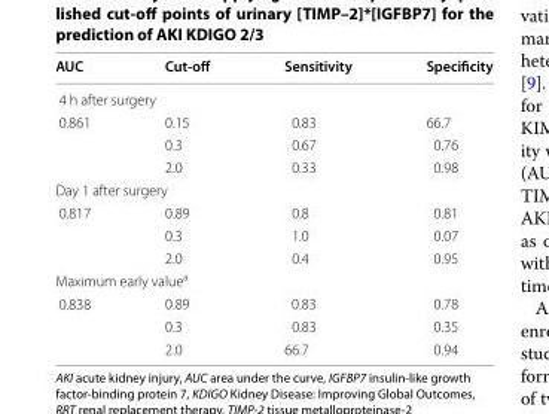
<table><thead><tr><td>AUC</td><td>Cut-off</td><td>Sensitivity</td><td>Specificity</td></tr></thead><tbody><tr><td colspan="4">4 h after surgery</td></tr><tr><td rowspan="3">0.861</td><td>0.15</td><td>0.83</td><td>66.7</td></tr><tr><td>0.3</td><td>0.67</td><td>0.76</td></tr><tr><td>2.0</td><td>0.33</td><td>0.98</td></tr><tr><td colspan="4">Day 1 after surgery</td></tr><tr><td rowspan="3">0.817</td><td>0.89</td><td>0.8</td><td>0.81</td></tr><tr><td>0.3</td><td>1.0</td><td>0.07</td></tr><tr><td>2.0</td><td>0.4</td><td>0.95</td></tr><tr><td colspan="4">Maximum early value<sup>a</sup></td></tr><tr><td rowspan="3">0.838</td><td>0.89</td><td>0.83</td><td>0.78</td></tr><tr><td>0.3</td><td>0.83</td><td>0.35</td></tr><tr><td>2.0</td><td>66.7</td><td>0.94</td></tr></tbody></table>